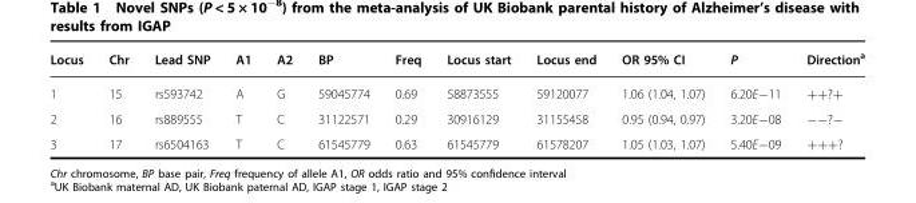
<table><thead><tr><td>Locus</td><td>Chr</td><td>Lead SNP</td><td>A1</td><td>A2</td><td>BP</td><td>Freq</td><td>Locus start</td><td>Locus end</td><td>OR 95% CI</td><td>P</td><td>Direction<sup>a</sup></td></tr></thead><tbody><tr><td>1</td><td>15</td><td>rs593742</td><td>A</td><td>G</td><td>59045774</td><td>0.69</td><td>58873555</td><td>59120077</td><td>1.06 (1.04, 1.07)</td><td>6.20E−11</td><td>++?+</td></tr><tr><td>2</td><td>16</td><td>rs889555</td><td>T</td><td>C</td><td>31122571</td><td>0.29</td><td>30916129</td><td>31155458</td><td>0.95 (0.94, 0.97)</td><td>3.20E−08</td><td>−−?−</td></tr><tr><td>3</td><td>17</td><td>rs6504163</td><td>T</td><td>C</td><td>61545779</td><td>0.63</td><td>61545779</td><td>61578207</td><td>1.05 (1.03, 1.07)</td><td>5.40E−09</td><td>+++?</td></tr></tbody></table>